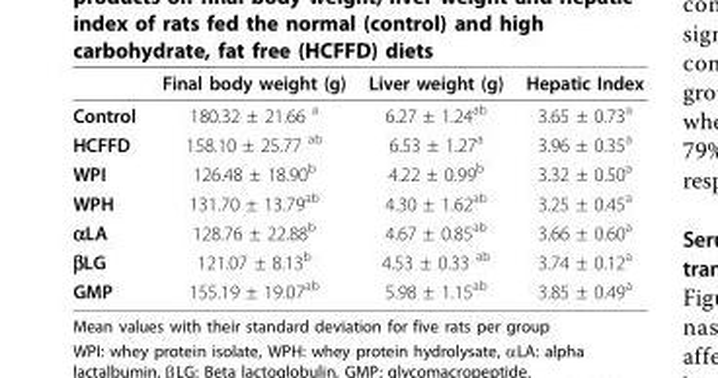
<table><thead><tr><td></td><td>Final body weight (g)</td><td>Liver weight (g)</td><td>Hepatic Index</td></tr></thead><tbody><tr><td>Control</td><td>180.32 ± 21.66 <sup>a</sup></td><td>6.27 ± 1.24<sup>ab</sup></td><td>3.65 ± 0.73<sup>a</sup></td></tr><tr><td>HCFFD</td><td>158.10 ± 25.77 <sup>ab</sup></td><td>6.53 ± 1.27<sup>a</sup></td><td>3.96 ± 0.35<sup>a</sup></td></tr><tr><td>WPI</td><td>126.48 ± 18.90<sup>b</sup></td><td>4.22 ± 0.99<sup>b</sup></td><td>3.32 ± 0.50<sup>a</sup></td></tr><tr><td>WPH</td><td>131.70 ± 13.79<sup>ab</sup></td><td>4.30 ± 1.62<sup>ab</sup></td><td>3.25 ± 0.45<sup>a</sup></td></tr><tr><td>αLA</td><td>128.76 ± 22.88<sup>b</sup></td><td>4.67 ± 0.85<sup>ab</sup></td><td>3.66 ± 0.60<sup>a</sup></td></tr><tr><td>βLG</td><td>121.07 ± 8.13<sup>b</sup></td><td>4.53 ± 0.33 <sup>ab</sup></td><td>3.74 ± 0.12<sup>a</sup></td></tr><tr><td>GMP</td><td>155.19 ± 19.07<sup>ab</sup></td><td>5.98 ± 1.15<sup>ab</sup></td><td>3.85 ± 0.49<sup>a</sup></td></tr></tbody></table>